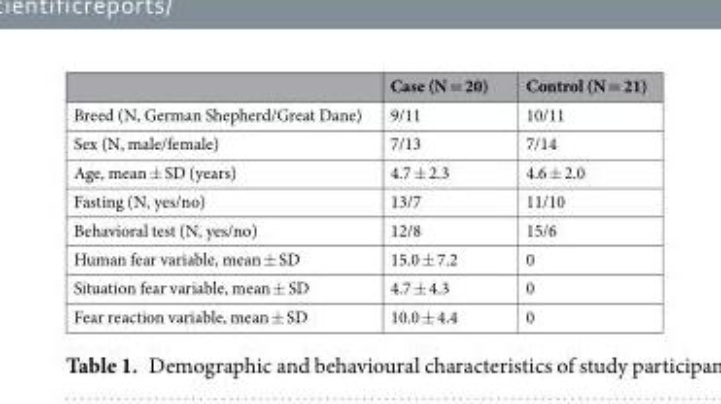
<table><thead><tr><td></td><td>Case (N = 20)</td><td>Control (N = 21)</td></tr></thead><tbody><tr><td>Breed (N, German Shepherd/Great Dane)</td><td>9/11</td><td>10/11</td></tr><tr><td>Sex (N, male/female)</td><td>7/13</td><td>7/14</td></tr><tr><td>Age, mean ± SD (years)</td><td>4.7 ± 2.3</td><td>4.6 ± 2.0</td></tr><tr><td>Fasting (N, yes/no)</td><td>13/7</td><td>11/10</td></tr><tr><td>Behavioral test (N, yes/no)</td><td>12/8</td><td>15/6</td></tr><tr><td>Human fear variable, mean ± SD</td><td>15.0 ± 7.2</td><td>0</td></tr><tr><td>Situation fear variable, mean ± SD</td><td>4.7 ± 4.3</td><td>0</td></tr><tr><td>Fear reaction variable, mean ± SD</td><td>10.0 ± 4.4</td><td>0</td></tr></tbody></table>